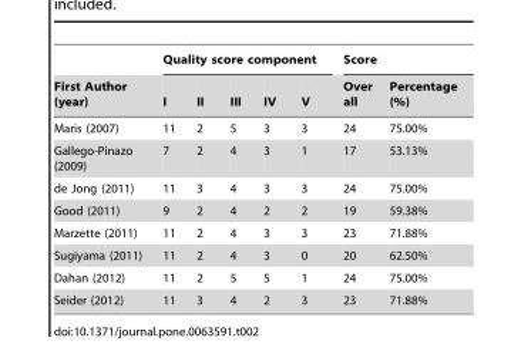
<table><thead><tr><td rowspan="2">First Author (year)</td><td colspan="5">Quality score component</td><td colspan="2">Score</td></tr><tr><td>I</td><td>II</td><td>III</td><td>IV</td><td>V</td><td>Over all</td><td>Percentage (%)</td></tr></thead><tbody><tr><td>Maris (2007)</td><td>11</td><td>2</td><td>5</td><td>3</td><td>3</td><td>24</td><td>75.00%</td></tr><tr><td>Gallego-Pinazo (2009)</td><td>7</td><td>2</td><td>4</td><td>3</td><td>1</td><td>17</td><td>53.13%</td></tr><tr><td>de Jong (2011)</td><td>11</td><td>3</td><td>4</td><td>3</td><td>3</td><td>24</td><td>75.00%</td></tr><tr><td>Good (2011)</td><td>9</td><td>2</td><td>4</td><td>2</td><td>2</td><td>19</td><td>59.38%</td></tr><tr><td>Marzette (2011)</td><td>11</td><td>2</td><td>4</td><td>3</td><td>3</td><td>23</td><td>71.88%</td></tr><tr><td>Sugiyama (2011)</td><td>11</td><td>2</td><td>4</td><td>3</td><td>0</td><td>20</td><td>62.50%</td></tr><tr><td>Dahan (2012)</td><td>11</td><td>2</td><td>5</td><td>5</td><td>1</td><td>24</td><td>75.00%</td></tr><tr><td>Seider (2012)</td><td>11</td><td>3</td><td>4</td><td>2</td><td>3</td><td>23</td><td>71.88%</td></tr></tbody></table>